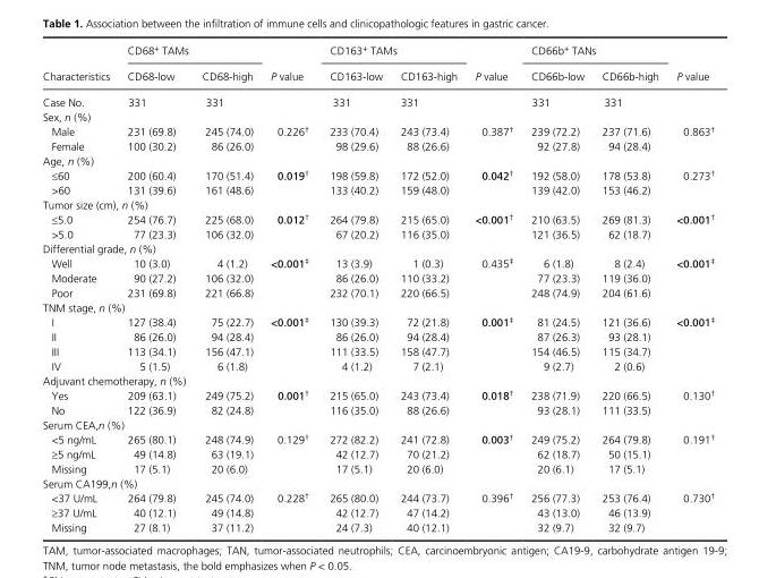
<table><thead><tr><td rowspan="2">Characteristics</td><td colspan="2">CD68<sup>+</sup> TAMs</td><td rowspan="2">P value</td><td colspan="2">CD163<sup>+</sup> TAMs</td><td rowspan="2">P value</td><td colspan="2">CD66b<sup>+</sup> TANs</td><td rowspan="2">P value</td></tr><tr><td>CD68- low</td><td>CD68- high</td><td>CD163- low</td><td>CD163- high</td><td>CD66b- low</td><td>CD66b- high</td></tr></thead><tbody><tr><td>Case No.</td><td>331</td><td>331</td><td></td><td>331</td><td>331</td><td></td><td>331</td><td>331</td><td></td></tr><tr><td colspan="10">Sex, n (%)</td></tr><tr><td>Male</td><td>231 (69.8)</td><td>245 (74.0)</td><td rowspan="2">0.226†</td><td>233 (70.4)</td><td>243 (73.4)</td><td rowspan="2">0.387†</td><td>239 (72.2)</td><td>237 (71.6)</td><td rowspan="2">0.863†</td></tr><tr><td>Female</td><td>100 (30.2)</td><td>86 (26.0)</td><td>98 (29.6)</td><td>88 (26.6)</td><td>92 (27.8)</td><td>94 (28.4)</td></tr><tr><td colspan="10">Age, n (%)</td></tr><tr><td>≤60</td><td>200 (60.4)</td><td>170 (51.4)</td><td rowspan="2">0.019†</td><td>198 (59.8)</td><td>172 (52.0)</td><td rowspan="2">0.042†</td><td>192 (58.0)</td><td>178 (53.8)</td><td rowspan="2">0.273†</td></tr><tr><td>&gt;60</td><td>131 (39.6)</td><td>161 (48.6)</td><td>133 (40.2)</td><td>159 (48.0)</td><td>139 (42.0)</td><td>153 (46.2)</td></tr><tr><td colspan="10">Tumor size (cm), n (%)</td></tr><tr><td>≤5.0</td><td>254 (76.7)</td><td>225 (68.0)</td><td rowspan="2">0.012†</td><td>264 (79.8)</td><td>215 (65.0)</td><td rowspan="2">&lt;0.001†</td><td>210 (63.5)</td><td>269 (81.3)</td><td rowspan="2">&lt;0.001†</td></tr><tr><td>&gt;5.0</td><td>77 (23.3)</td><td>106 (32.0)</td><td>67 (20.2)</td><td>116 (35.0)</td><td>121 (36.5)</td><td>62 (18.7)</td></tr><tr><td colspan="10">Differential grade, n (%)</td></tr><tr><td>Well</td><td>10 (3.0)</td><td>4 (1.2)</td><td rowspan="3">&lt;0.001‡</td><td>13 (3.9)</td><td>1 (0.3)</td><td rowspan="3">0.435‡</td><td>6 (1.8)</td><td>8 (2.4)</td><td rowspan="3">&lt;0.001‡</td></tr><tr><td>Moderate</td><td>90 (27.2)</td><td>106 (32.0)</td><td>86 (26.0)</td><td>110 (33.2)</td><td>77 (23.3)</td><td>119 (36.0)</td></tr><tr><td>Poor</td><td>231 (69.8)</td><td>221 (66.8)</td><td>232 (70.1)</td><td>220 (66.5)</td><td>248 (74.9)</td><td>204 (61.6)</td></tr><tr><td colspan="10">TNM stage, n (%)</td></tr><tr><td>I</td><td>127 (38.4)</td><td>75 (22.7)</td><td rowspan="4">&lt;0.001‡</td><td>130 (39.3)</td><td>72 (21.8)</td><td rowspan="4">0.001‡</td><td>81 (24.5)</td><td>121 (36.6)</td><td rowspan="4">&lt;0.001‡</td></tr><tr><td>II</td><td>86 (26.0)</td><td>94 (28.4)</td><td>86 (26.0)</td><td>94 (28.4)</td><td>87 (26.3)</td><td>93 (28.1)</td></tr><tr><td>III</td><td>113 (34.1)</td><td>156 (47.1)</td><td>111 (33.5)</td><td>158 (47.7)</td><td>154 (46.5)</td><td>115 (34.7)</td></tr><tr><td>IV</td><td>5 (1.5)</td><td>6 (1.8)</td><td>4 (1.2)</td><td>7 (2.1)</td><td>9 (2.7)</td><td>2 (0.6)</td></tr><tr><td colspan="10">Adjuvant chemotherapy, n (%)</td></tr><tr><td>Yes</td><td>209 (63.1)</td><td>249 (75.2)</td><td rowspan="2">0.001†</td><td>215 (65.0)</td><td>243 (73.4)</td><td rowspan="2">0.018†</td><td>238 (71.9)</td><td>220 (66.5)</td><td rowspan="2">0.130†</td></tr><tr><td>No</td><td>122 (36.9)</td><td>82 (24.8)</td><td>116 (35.0)</td><td>88 (26.6)</td><td>93 (28.1)</td><td>111 (33.5)</td></tr><tr><td colspan="10">Serum CEA,n (%)</td></tr><tr><td>&lt;5 ng/mL</td><td>265 (80.1)</td><td>248 (74.9)</td><td rowspan="3">0.129†</td><td>272 (82.2)</td><td>241 (72.8)</td><td rowspan="3">0.003†</td><td>249 (75.2)</td><td>264 (79.8)</td><td rowspan="3">0.191†</td></tr><tr><td>≥5 ng/mL</td><td>49 (14.8)</td><td>63 (19.1)</td><td>42 (12.7)</td><td>70 (21.2)</td><td>62 (18.7)</td><td>50 (15.1)</td></tr><tr><td>Missing</td><td>17 (5.1)</td><td>20 (6.0)</td><td>17 (5.1)</td><td>20 (6.0)</td><td>20 (6.1)</td><td>17 (5.1)</td></tr><tr><td colspan="10">Serum CA199,n (%)</td></tr><tr><td>&lt;37 U/mL</td><td>264 (79.8)</td><td>245 (74.0)</td><td rowspan="3">0.228†</td><td>265 (80.0)</td><td>244 (73.7)</td><td rowspan="3">0.396†</td><td>256 (77.3)</td><td>253 (76.4)</td><td rowspan="3">0.730†</td></tr><tr><td>≥37 U/mL</td><td>40 (12.1)</td><td>49 (14.8)</td><td>42 (12.7)</td><td>47 (14.2)</td><td>43 (13.0)</td><td>46 (13.9)</td></tr><tr><td>Missing</td><td>27 (8.1)</td><td>37 (11.2)</td><td>24 (7.3)</td><td>40 (12.1)</td><td>32 (9.7)</td><td>32 (9.7)</td></tr></tbody></table>